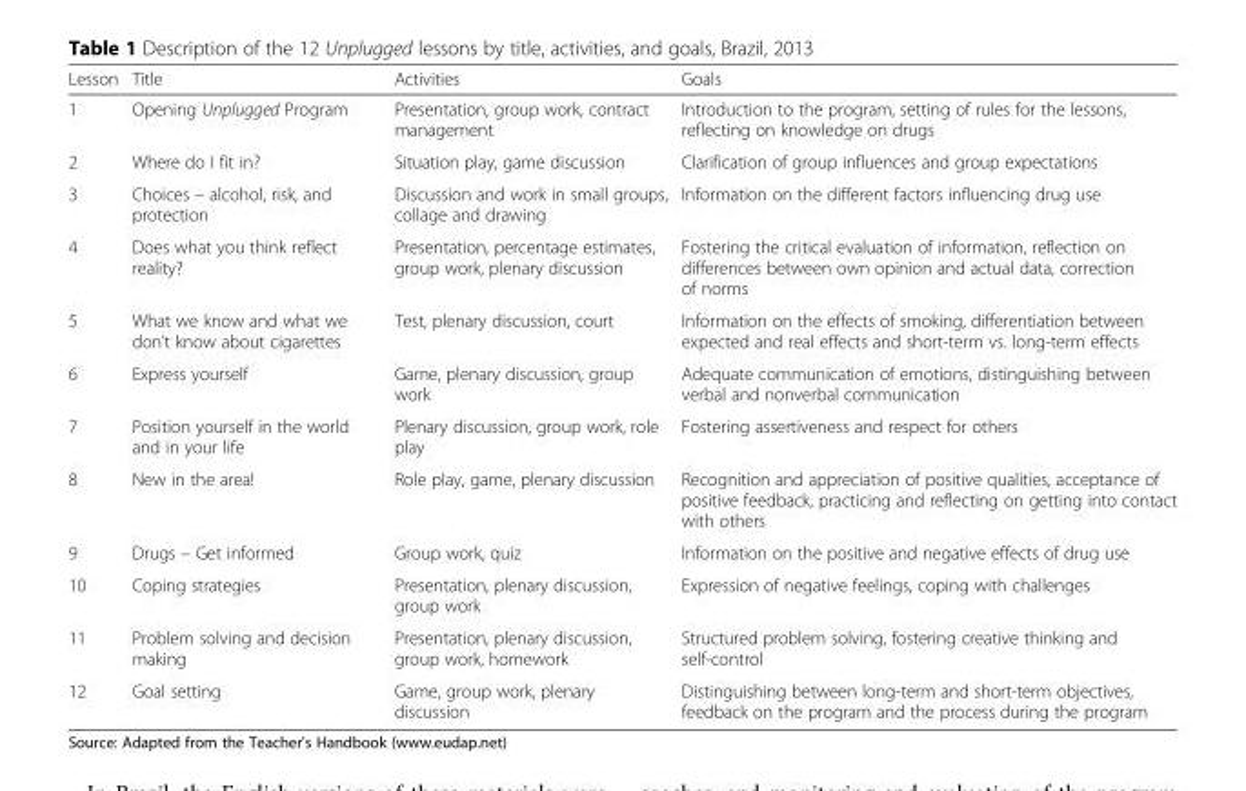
<table><thead><tr><td>Lesson</td><td>Title</td><td>Activities</td><td>Goals</td></tr></thead><tbody><tr><td>1</td><td>Opening Unplugged Program</td><td>Presentation, group work, contract management</td><td>Introduction to the program, setting of rules for the lessons, reflecting on knowledge on drugs</td></tr><tr><td>2</td><td>Where do I fit in?</td><td>Situation play, game discussion</td><td>Clarification of group influences and group expectations</td></tr><tr><td>3</td><td>Choices – alcohol, risk, and protection</td><td>Discussion and work in small groups, collage and drawing</td><td>Information on the different factors influencing drug use</td></tr><tr><td>4</td><td>Does what you think reflect reality?</td><td>Presentation, percentage estimates, group work, plenary discussion</td><td>Fostering the critical evaluation of information, reflection on differences between own opinion and actual data, correction of norms</td></tr><tr><td>5</td><td>What we know and what we don’t know about cigarettes</td><td>Test, plenary discussion, court</td><td>Information on the effects of smoking, differentiation between expected and real effects and short-term vs. long-term effects</td></tr><tr><td>6</td><td>Express yourself</td><td>Game, plenary discussion, group work</td><td>Adequate communication of emotions, distinguishing between verbal and nonverbal communication</td></tr><tr><td>7</td><td>Position yourself in the world and in your life</td><td>Plenary discussion, group work, role play</td><td>Fostering assertiveness and respect for others</td></tr><tr><td>8</td><td>New in the area!</td><td>Role play, game, plenary discussion</td><td>Recognition and appreciation of positive qualities, acceptance of positive feedback, practicing and reflecting on getting into contact with others</td></tr><tr><td>9</td><td>Drugs – Get informed</td><td>Group work, quiz</td><td>Information on the positive and negative effects of drug use</td></tr><tr><td>10</td><td>Coping strategies</td><td>Presentation, plenary discussion, group work</td><td>Expression of negative feelings, coping with challenges</td></tr><tr><td>11</td><td>Problem solving and decision making</td><td>Presentation, plenary discussion, group work, homework</td><td>Structured problem solving, fostering creative thinking and self-control</td></tr><tr><td>12</td><td>Goal setting</td><td>Game, group work, plenary discussion</td><td>Distinguishing between long-term and short-term objectives, feedback on the program and the process during the program</td></tr></tbody></table>